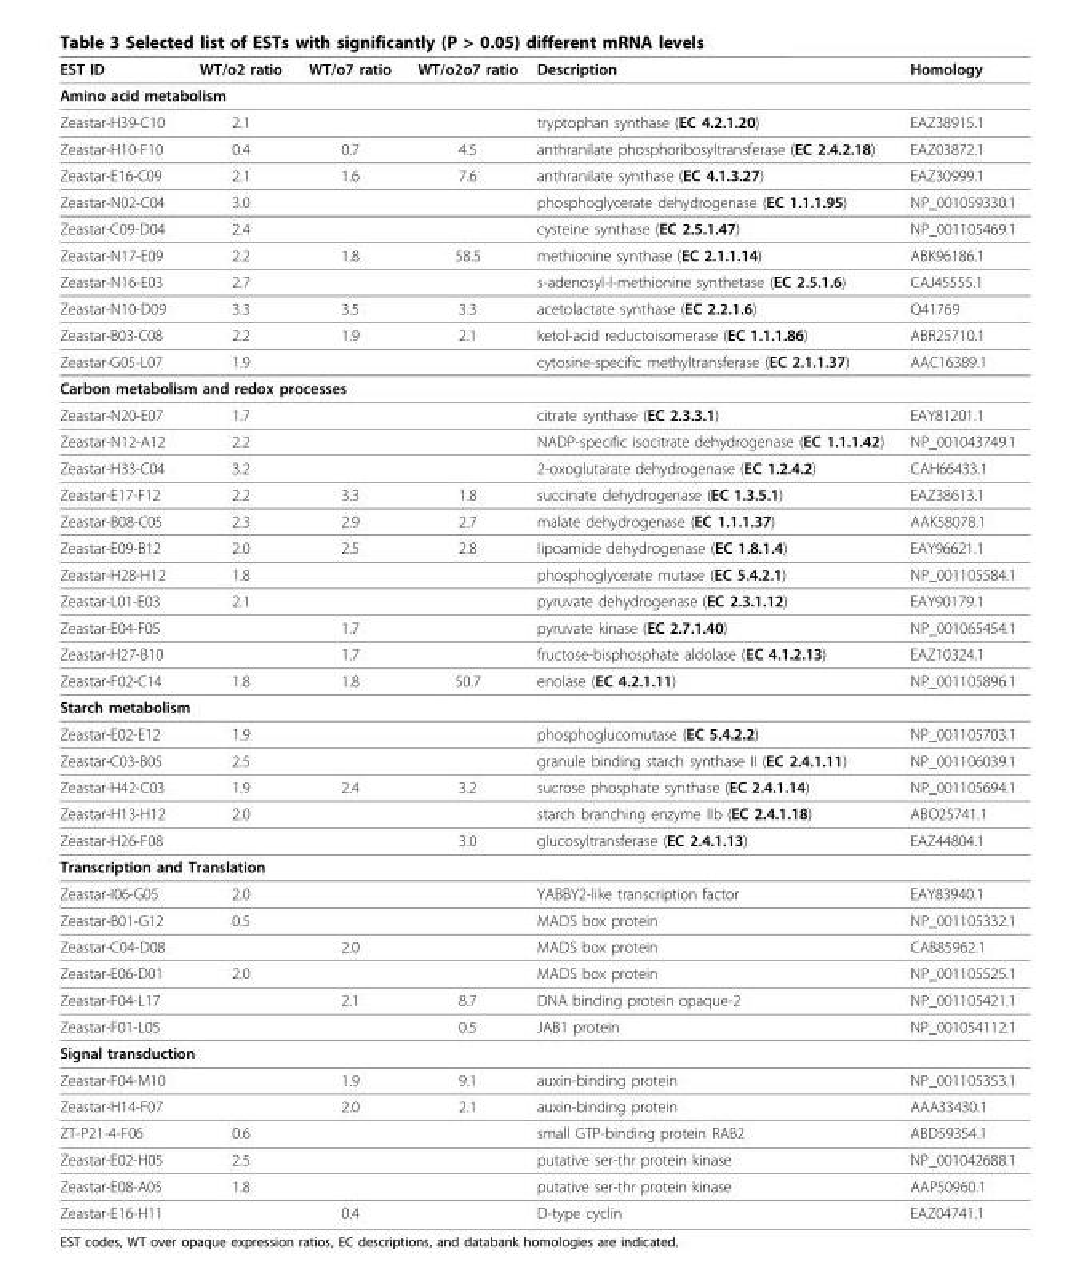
<table><thead><tr><td>EST ID</td><td>WT/o2 ratio</td><td>WT/o7 ratio</td><td>WT/o2o7 ratio</td><td>Description</td><td>Homology</td></tr></thead><tbody><tr><td colspan="6">Amino acid metabolism</td></tr><tr><td>Zeastar-H39-C10</td><td>2.1</td><td></td><td></td><td>tryptophan synthase (EC 4.2.1.20)</td><td>EAZ38915.1</td></tr><tr><td>Zeastar-H10-F10</td><td>0.4</td><td>0.7</td><td>4.5</td><td>anthranilate phosphoribosyltransferase (EC 2.4.2.18)</td><td>EAZ03872.1</td></tr><tr><td>Zeastar-E16-C09</td><td>2.1</td><td>1.6</td><td>7.6</td><td>anthranilate synthase (EC 4.1.3.27)</td><td>EAZ30999.1</td></tr><tr><td>Zeastar-N02-C04</td><td>3.0</td><td></td><td></td><td>phosphoglycerate dehydrogenase (EC 1.1.1.95)</td><td>NP_001059330.1</td></tr><tr><td>Zeastar-C09-D04</td><td>2.4</td><td></td><td></td><td>cysteine synthase (EC 2.5.1.47)</td><td>NP_001105469.1</td></tr><tr><td>Zeastar-N17-E09</td><td>2.2</td><td>1.8</td><td>58.5</td><td>methionine synthase (EC 2.1.1.14)</td><td>ABK96186.1</td></tr><tr><td>Zeastar-N16-E03</td><td>2.7</td><td></td><td></td><td>s-adenosyl-l-methionine synthetase (EC 2.5.1.6)</td><td>CAJ45555.1</td></tr><tr><td>Zeastar-N10-D09</td><td>3.3</td><td>3.5</td><td>3.3</td><td>acetolactate synthase (EC 2.2.1.6)</td><td>Q41769</td></tr><tr><td>Zeastar-B03-C08</td><td>2.2</td><td>1.9</td><td>2.1</td><td>ketol-acid reductoisomerase (EC 1.1.1.86)</td><td>ABR25710.1</td></tr><tr><td>Zeastar-G05-L07</td><td>1.9</td><td></td><td></td><td>cytosine-specific methyltransferase (EC 2.1.1.37)</td><td>AAC16389.1</td></tr><tr><td colspan="6">Carbon metabolism and redox processes</td></tr><tr><td>Zeastar-N20-E07</td><td>1.7</td><td></td><td></td><td>citrate synthase (EC 2.3.3.1)</td><td>EAY81201.1</td></tr><tr><td>Zeastar-N12-A12</td><td>2.2</td><td></td><td></td><td>NADP-specific isocitrate dehydrogenase (EC 1.1.1.42)</td><td>NP_001043749.1</td></tr><tr><td>Zeastar-H33-C04</td><td>3.2</td><td></td><td></td><td>2-oxoglutarate dehydrogenase (EC 1.2.4.2)</td><td>CAH66433.1</td></tr><tr><td>Zeastar-E17-F12</td><td>2.2</td><td>3.3</td><td>1.8</td><td>succinate dehydrogenase (EC 1.3.5.1)</td><td>EAZ38613.1</td></tr><tr><td>Zeastar-B08-C05</td><td>2.3</td><td>2.9</td><td>2.7</td><td>malate dehydrogenase (EC 1.1.1.37)</td><td>AAK58078.1</td></tr><tr><td>Zeastar-E09-B12</td><td>2.0</td><td>2.5</td><td>2.8</td><td>lipoamide dehydrogenase (EC 1.8.1.4)</td><td>EAY96621.1</td></tr><tr><td>Zeastar-H28-H12</td><td>1.8</td><td></td><td></td><td>phosphoglycerate mutase (EC 5.4.2.1)</td><td>NP_001105584.1</td></tr><tr><td>Zeastar-L01-E03</td><td>2.1</td><td></td><td></td><td>pyruvate dehydrogenase (EC 2.3.1.12)</td><td>EAY90179.1</td></tr><tr><td>Zeastar-E04-F05</td><td></td><td>1.7</td><td></td><td>pyruvate kinase (EC 2.7.1.40)</td><td>NP_001065454.1</td></tr><tr><td>Zeastar-H27-B10</td><td></td><td>1.7</td><td></td><td>fructose-bisphosphate aldolase (EC 4.1.2.13)</td><td>EAZ10324.1</td></tr><tr><td>Zeastar-F02-C14</td><td>1.8</td><td>1.8</td><td>50.7</td><td>enolase (EC 4.2.1.11)</td><td>NP_001105896.1</td></tr><tr><td colspan="6">Starch metabolism</td></tr><tr><td>Zeastar-E02-E12</td><td>1.9</td><td></td><td></td><td>phosphoglucomutase (EC 5.4.2.2)</td><td>NP_001105703.1</td></tr><tr><td>Zeastar-C03-B05</td><td>2.5</td><td></td><td></td><td>granule binding starch synthase II (EC 2.4.1.11)</td><td>NP_001106039.1</td></tr><tr><td>Zeastar-H42-C03</td><td>1.9</td><td>2.4</td><td>3.2</td><td>sucrose phosphate synthase (EC 2.4.1.14)</td><td>NP_001105694.1</td></tr><tr><td>Zeastar-H13-H12</td><td>2.0</td><td></td><td></td><td>starch branching enzyme IIb (EC 2.4.1.18)</td><td>ABO25741.1</td></tr><tr><td>Zeastar-H26-F08</td><td></td><td></td><td>3.0</td><td>glucosyltransferase (EC 2.4.1.13)</td><td>EAZ44804.1</td></tr><tr><td colspan="6">Transcription and Translation</td></tr><tr><td>Zeastar-I06-G05</td><td>2.0</td><td></td><td></td><td>YABBY2-like transcription factor</td><td>EAY83940.1</td></tr><tr><td>Zeastar-B01-G12</td><td>0.5</td><td></td><td></td><td>MADS box protein</td><td>NP_001105332.1</td></tr><tr><td>Zeastar-C04-D08</td><td></td><td>2.0</td><td></td><td>MADS box protein</td><td>CAB85962.1</td></tr><tr><td>Zeastar-E06-D01</td><td>2.0</td><td></td><td></td><td>MADS box protein</td><td>NP_001105525.1</td></tr><tr><td>Zeastar-F04-L17</td><td></td><td>2.1</td><td>8.7</td><td>DNA binding protein opaque-2</td><td>NP_001105421.1</td></tr><tr><td>Zeastar-F01-L05</td><td></td><td></td><td>0.5</td><td>JAB1 protein</td><td>NP_001054112.1</td></tr><tr><td colspan="6">Signal transduction</td></tr><tr><td>Zeastar-F04-M10</td><td></td><td>1.9</td><td>9.1</td><td>auxin-binding protein</td><td>NP_001105353.1</td></tr><tr><td>Zeastar-H14-F07</td><td></td><td>2.0</td><td>2.1</td><td>auxin-binding protein</td><td>AAA33430.1</td></tr><tr><td>ZT-P21-4-F06</td><td>0.6</td><td></td><td></td><td>small GTP-binding protein RAB2</td><td>ABD59354.1</td></tr><tr><td>Zeastar-E02-H05</td><td>2.5</td><td></td><td></td><td>putative ser-thr protein kinase</td><td>NP_001042688.1</td></tr><tr><td>Zeastar-E08-A05</td><td>1.8</td><td></td><td></td><td>putative ser-thr protein kinase</td><td>AAP50960.1</td></tr><tr><td>Zeastar-E16-H11</td><td></td><td>0.4</td><td></td><td>D-type cyclin</td><td>EAZ04741.1</td></tr></tbody></table>